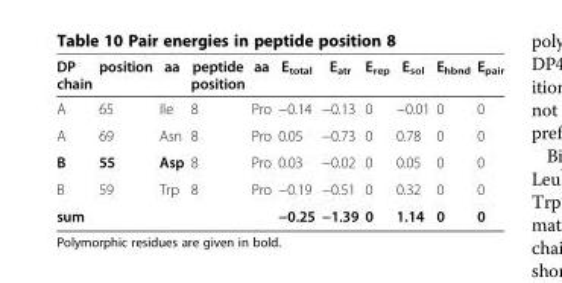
<table><thead><tr><td>DP chain</td><td>position</td><td>aa</td><td>peptide position</td><td>aa</td><td>E<sub>total</sub></td><td>E<sub>atr</sub></td><td>E<sub>rep</sub></td><td>E<sub>sol</sub></td><td>E<sub>hbnd</sub></td><td>E<sub>pair</sub></td></tr></thead><tbody><tr><td>A</td><td>65</td><td>Ile</td><td>8</td><td>Pro</td><td>−0.14</td><td>−0.13</td><td>0</td><td>−0.01</td><td>0</td><td>0</td></tr><tr><td>A</td><td>69</td><td>Asn</td><td>8</td><td>Pro</td><td>0.05</td><td>−0.73</td><td>0</td><td>0.78</td><td>0</td><td>0</td></tr><tr><td>B</td><td>55</td><td>Asp</td><td>8</td><td>Pro</td><td>0.03</td><td>−0.02</td><td>0</td><td>0.05</td><td>0</td><td>0</td></tr><tr><td>B</td><td>59</td><td>Trp</td><td>8</td><td>Pro</td><td>−0.19</td><td>−0.51</td><td>0</td><td>0.32</td><td>0</td><td>0</td></tr><tr><td>sum</td><td></td><td></td><td></td><td></td><td>−0.25</td><td>−1.39</td><td>0</td><td>1.14</td><td>0</td><td>0</td></tr></tbody></table>